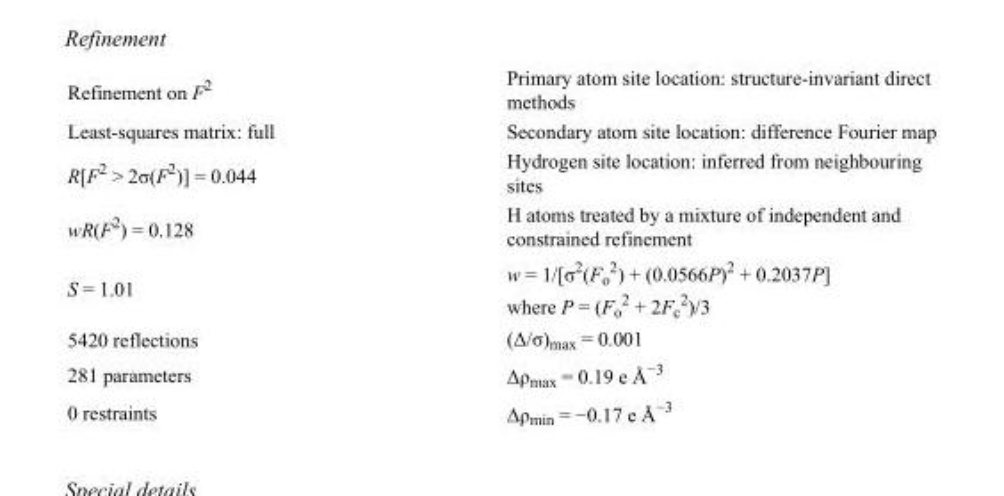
<table><tbody><tr><td>Refinement on F<sup>2</sup></td><td>Primary atom site location: structure-invariant direct methods</td></tr><tr><td>Least-squares matrix: full</td><td>Secondary atom site location: difference Fourier map</td></tr><tr><td>R[F<sup>2</sup> &gt; 2σ(F<sup>2</sup>)] = 0.044</td><td>Hydrogen site location: inferred from neighbouring sites</td></tr><tr><td>wR(F<sup>2</sup>) = 0.128</td><td>H atoms treated by a mixture of independent and constrained refinement</td></tr><tr><td>S = 1.01</td><td>w = 1/[σ<sup>2</sup>(F<sub>o</sub> <sup>2</sup>) + (0.0566P)<sup>2</sup> + 0.2037P] where P = (F<sub>o</sub> <sup>2</sup> + 2F<sub>c</sub> <sup>2</sup>)/3</td></tr><tr><td>5420 reflections</td><td>(Δ/σ)<sub>max</sub> = 0.001</td></tr><tr><td>281 parameters</td><td>Δρ<sub>max</sub> = 0.19 e Å<sup>−3</sup></td></tr><tr><td>0 restraints</td><td>Δρ<sub>min</sub> = −0.17 e Å<sup>−3</sup></td></tr></tbody></table>